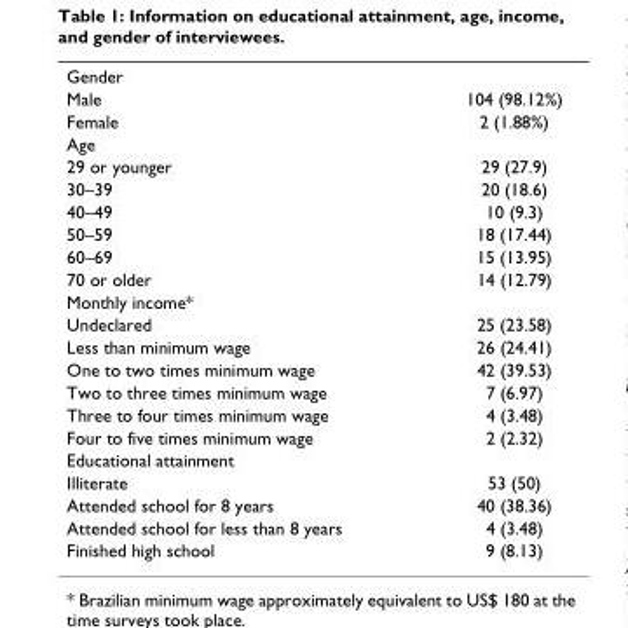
<table><tbody><tr><td colspan="2">Gender</td></tr><tr><td>Male</td><td>104 (98.12%)</td></tr><tr><td>Female</td><td>2 (1.88%)</td></tr><tr><td colspan="2">Age</td></tr><tr><td>29 or younger</td><td>29 (27.9)</td></tr><tr><td>30–39</td><td>20 (18.6)</td></tr><tr><td>40–49</td><td>10 (9.3)</td></tr><tr><td>50–59</td><td>18 (17.44)</td></tr><tr><td>60–69</td><td>15 (13.95)</td></tr><tr><td>70 or older</td><td>14 (12.79)</td></tr><tr><td colspan="2">Monthly income*</td></tr><tr><td>Undeclared</td><td>25 (23.58)</td></tr><tr><td>Less than minimum wage</td><td>26 (24.41)</td></tr><tr><td>One to two times minimum wage</td><td>42 (39.53)</td></tr><tr><td>Two to three times minimum wage</td><td>7 (6.97)</td></tr><tr><td>Three to four times minimum wage</td><td>4 (3.48)</td></tr><tr><td>Four to five times minimum wage</td><td>2 (2.32)</td></tr><tr><td colspan="2">Educational attainment</td></tr><tr><td>Illiterate</td><td>53 (50)</td></tr><tr><td>Attended school for 8 years</td><td>40 (38.36)</td></tr><tr><td>Attended school for less than 8 years</td><td>4 (3.48)</td></tr><tr><td>Finished high school</td><td>9 (8.13)</td></tr></tbody></table>